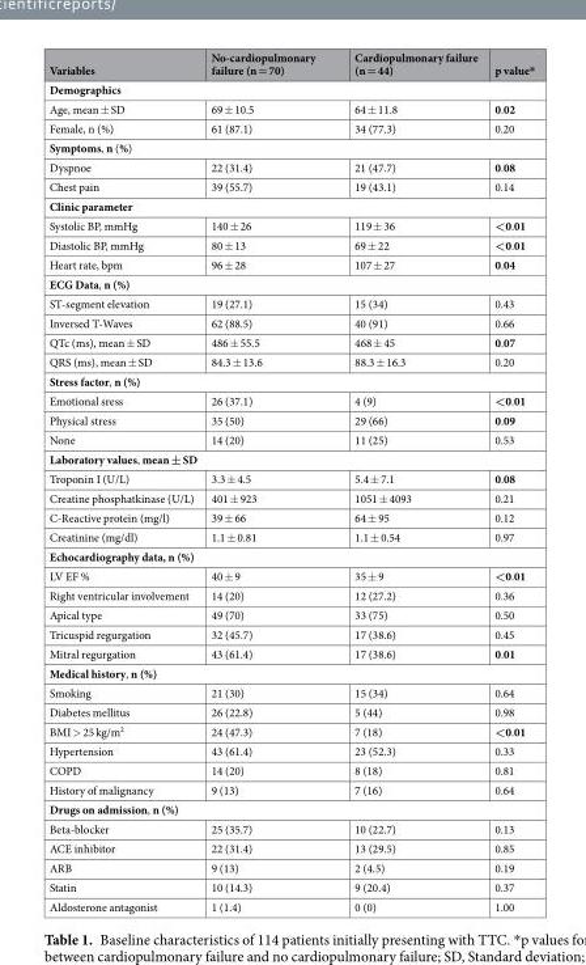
<table><thead><tr><td>Variables</td><td>No-cardiopulmonary failure (n = 70)</td><td>Cardiopulmonary failure (n = 44)</td><td>p value*</td></tr></thead><tbody><tr><td colspan="4">Demographics</td></tr><tr><td>Age, mean ± SD</td><td>69 ± 10.5</td><td>64 ± 11.8</td><td>0.02</td></tr><tr><td>Female, n (%)</td><td>61 (87.1)</td><td>34 (77.3)</td><td>0.20</td></tr><tr><td colspan="4">Symptoms, n (%)</td></tr><tr><td>Dyspnoe</td><td>22 (31.4)</td><td>21 (47.7)</td><td>0.08</td></tr><tr><td>Chest pain</td><td>39 (55.7)</td><td>19 (43.1)</td><td>0.14</td></tr><tr><td colspan="4">Clinic parameter</td></tr><tr><td>Systolic BP, mmHg</td><td>140 ± 26</td><td>119 ± 36</td><td>&lt;0.01</td></tr><tr><td>Diastolic BP, mmHg</td><td>80 ± 13</td><td>69 ± 22</td><td>&lt;0.01</td></tr><tr><td>Heart rate, bpm</td><td>96 ± 28</td><td>107 ± 27</td><td>0.04</td></tr><tr><td colspan="4">ECG Data, n (%)</td></tr><tr><td>ST-segment elevation</td><td>19 (27.1)</td><td>15 (34)</td><td>0.43</td></tr><tr><td>Inversed T-Waves</td><td>62 (88.5)</td><td>40 (91)</td><td>0.66</td></tr><tr><td>QTc (ms), mean ± SD</td><td>486 ± 55.5</td><td>468 ± 45</td><td>0.07</td></tr><tr><td>QRS (ms), mean ± SD</td><td>84.3 ± 13.6</td><td>88.3 ± 16.3</td><td>0.20</td></tr><tr><td colspan="4">Stress factor, n (%)</td></tr><tr><td>Emotional sress</td><td>26 (37.1)</td><td>4 (9)</td><td>&lt;0.01</td></tr><tr><td>Physical stress</td><td>35 (50)</td><td>29 (66)</td><td>0.09</td></tr><tr><td>None</td><td>14 (20)</td><td>11 (25)</td><td>0.53</td></tr><tr><td colspan="4">Laboratory values, mean ± SD</td></tr><tr><td>Troponin I (U/L)</td><td>3.3 ± 4.5</td><td>5.4 ± 7.1</td><td>0.08</td></tr><tr><td>Creatine phosphatkinase (U/L)</td><td>401 ± 923</td><td>1051 ± 4093</td><td>0.21</td></tr><tr><td>C-Reactive protein (mg/l)</td><td>39 ± 66</td><td>64 ± 95</td><td>0.12</td></tr><tr><td>Creatinine (mg/dl)</td><td>1.1 ± 0.81</td><td>1.1 ± 0.54</td><td>0.97</td></tr><tr><td colspan="4">Echocardiography data, n (%)</td></tr><tr><td>LV EF %</td><td>40 ± 9</td><td>35 ± 9</td><td>&lt;0.01</td></tr><tr><td>Right ventricular involvement</td><td>14 (20)</td><td>12 (27.2)</td><td>0.36</td></tr><tr><td>Apical type</td><td>49 (70)</td><td>33 (75)</td><td>0.50</td></tr><tr><td>Tricuspid regurgation</td><td>32 (45.7)</td><td>17 (38.6)</td><td>0.45</td></tr><tr><td>Mitral regurgation</td><td>43 (61.4)</td><td>17 (38.6)</td><td>0.01</td></tr><tr><td colspan="4">Medical history, n (%)</td></tr><tr><td>Smoking</td><td>21 (30)</td><td>15 (34)</td><td>0.64</td></tr><tr><td>Diabetes mellitus</td><td>26 (22.8)</td><td>5 (44)</td><td>0.98</td></tr><tr><td>BMI &gt; 25 kg/m<sup>2</sup></td><td>24 (47.3)</td><td>7 (18)</td><td>&lt;0.01</td></tr><tr><td>Hypertension</td><td>43 (61.4)</td><td>23 (52.3)</td><td>0.33</td></tr><tr><td>COPD</td><td>14 (20)</td><td>8 (18)</td><td>0.81</td></tr><tr><td>History of malignancy</td><td>9 (13)</td><td>7 (16)</td><td>0.64</td></tr><tr><td colspan="4">Drugs on admission, n (%)</td></tr><tr><td>Beta-blocker</td><td>25 (35.7)</td><td>10 (22.7)</td><td>0.13</td></tr><tr><td>ACE inhibitor</td><td>22 (31.4)</td><td>13 (29.5)</td><td>0.85</td></tr><tr><td>ARB</td><td>9 (13)</td><td>2 (4.5)</td><td>0.19</td></tr><tr><td>Statin</td><td>10 (14.3)</td><td>9 (20.4)</td><td>0.37</td></tr><tr><td>Aldosterone antagonist</td><td>1 (1.4)</td><td>0 (0)</td><td>1.00</td></tr></tbody></table>